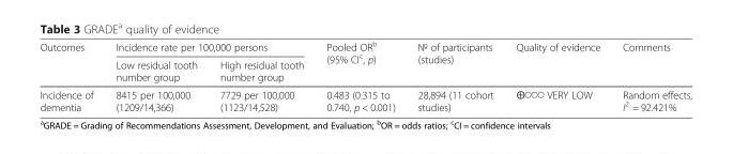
<table><thead><tr><td rowspan="2">Outcomes</td><td colspan="2">Incidence rate per 100,000 persons</td><td rowspan="2">Pooled OR<sup>b</sup> (95% CI<sup>c</sup>, p)</td><td rowspan="2">№ of participants (studies)</td><td rowspan="2">Quality of evidence</td><td rowspan="2">Comments</td></tr><tr><td>Low residual tooth number group</td><td>High residual tooth number group</td></tr></thead><tbody><tr><td>Incidence of dementia</td><td>8415 per 100,000 (1209/14,366)</td><td>7729 per 100,000 (1123/14,528)</td><td>0.483 (0.315 to 0.740, p &lt; 0.001)</td><td>28,894 (11 cohort studies)</td><td>⨁◯◯◯ VERY LOW</td><td>Random effects, I<sup>2</sup> = 92.421%</td></tr></tbody></table>